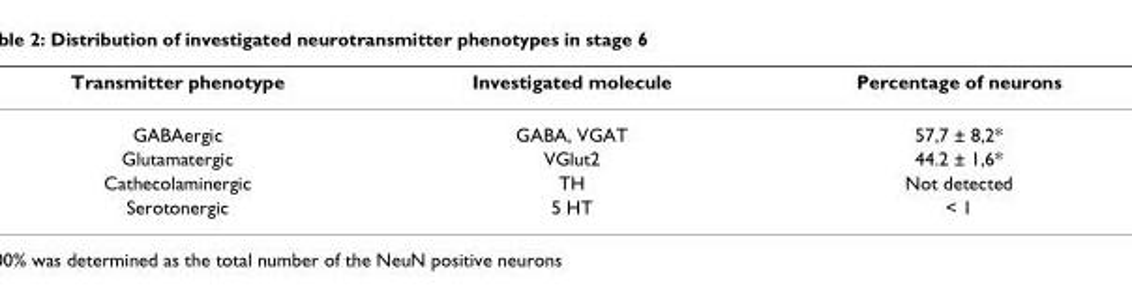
<table><thead><tr><td>Transmitter phenotype</td><td>Investigated molecule</td><td>Percentage of neurons</td></tr></thead><tbody><tr><td>GABAergic</td><td>GABA, VGAT</td><td>57,7 ± 8,2*</td></tr><tr><td>Glutamatergic</td><td>VGlut2</td><td>44.2 ± 1,6*</td></tr><tr><td>Cathecolaminergic</td><td>TH</td><td>Not detected</td></tr><tr><td>Serotonergic</td><td>5 HT</td><td>&lt; 1</td></tr></tbody></table>